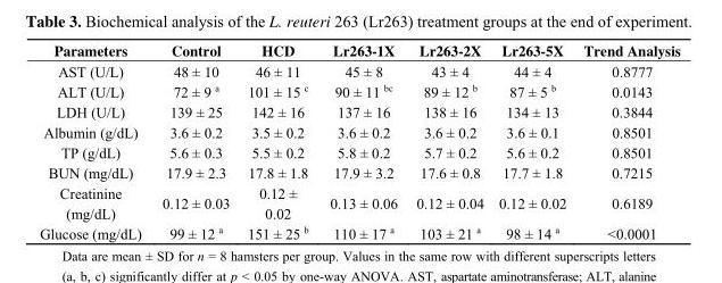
<table><thead><tr><td>Parameters</td><td>Control</td><td>HCD</td><td>Lr263-1X</td><td>Lr263-2X</td><td>Lr263-5X</td><td>Trend Analysis</td></tr></thead><tbody><tr><td>AST (U/L)</td><td>48 ± 10</td><td>46 ± 11</td><td>45 ± 8</td><td>43 ± 4</td><td>44 ± 4</td><td>0.8777</td></tr><tr><td>ALT (U/L)</td><td>72 ± 9 <sup>a</sup></td><td>101 ± 15 <sup>c</sup></td><td>90 ± 11 <sup>bc</sup></td><td>89 ± 12 <sup>b</sup></td><td>87 ± 5 <sup>b</sup></td><td>0.0143</td></tr><tr><td>LDH (U/L)</td><td>139 ± 25</td><td>142 ± 16</td><td>137 ± 16</td><td>138 ± 16</td><td>134 ± 13</td><td>0.3844</td></tr><tr><td>Albumin (g/dL)</td><td>3.6 ± 0.2</td><td>3.5 ± 0.2</td><td>3.6 ± 0.2</td><td>3.6 ± 0.2</td><td>3.6 ± 0.1</td><td>0.8501</td></tr><tr><td>TP (g/dL)</td><td>5.6 ± 0.3</td><td>5.5 ± 0.2</td><td>5.8 ± 0.2</td><td>5.7 ± 0.2</td><td>5.6 ± 0.2</td><td>0.8501</td></tr><tr><td>BUN (mg/dL)</td><td>17.9 ± 2.3</td><td>17.8 ± 1.8</td><td>17.9 ± 3.2</td><td>17.6 ± 0.8</td><td>17.7 ± 1.8</td><td>0.7215</td></tr><tr><td>Creatinine (mg/dL)</td><td>0.12 ± 0.03</td><td>0.12 ± 0.02</td><td>0.13 ± 0.06</td><td>0.12 ± 0.04</td><td>0.12 ± 0.02</td><td>0.6189</td></tr><tr><td>Glucose (mg/dL)</td><td>99 ± 12 <sup>a</sup></td><td>151 ± 25 <sup>b</sup></td><td>110 ± 17 <sup>a</sup></td><td>103 ± 21 <sup>a</sup></td><td>98 ± 14 <sup>a</sup></td><td>&lt;0.0001</td></tr></tbody></table>